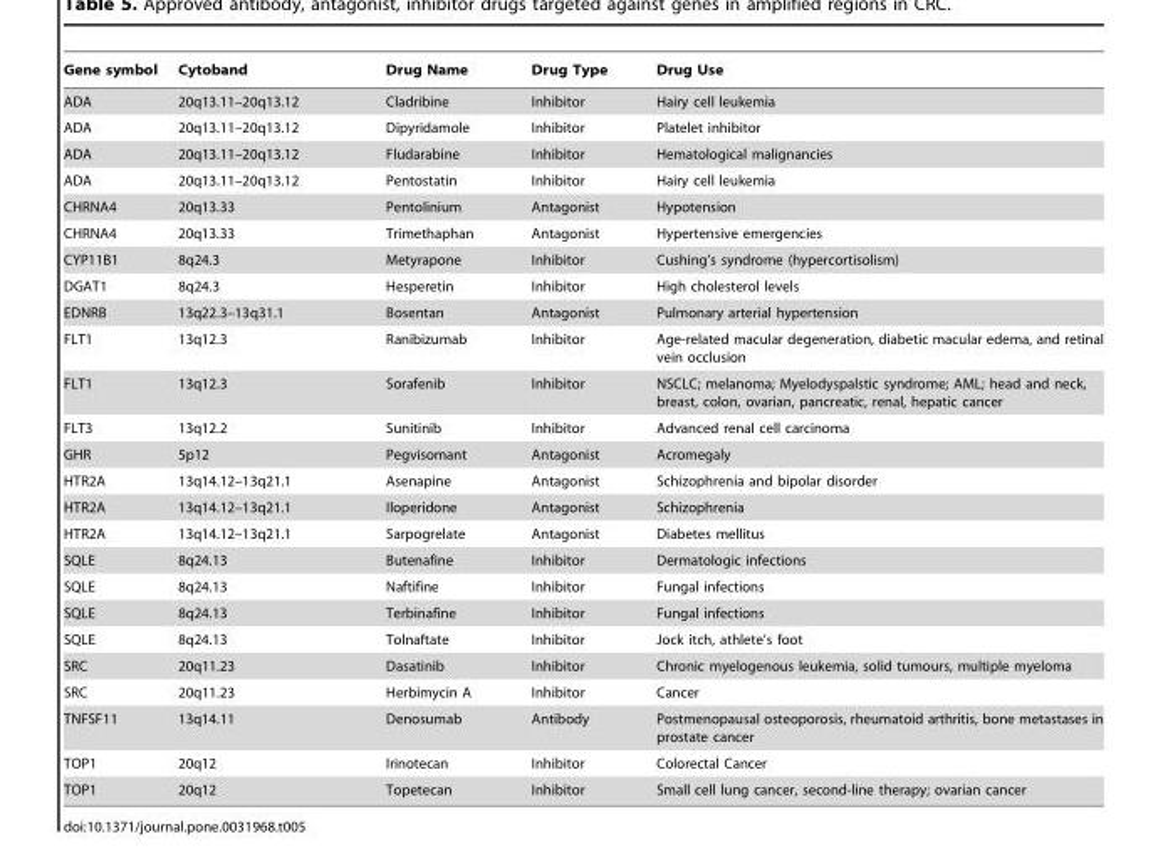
<table><thead><tr><td>Gene symbol</td><td>Cytoband</td><td>Drug Name</td><td>Drug Type</td><td>Drug Use</td></tr></thead><tbody><tr><td>ADA</td><td>20q13.11–20q13.12</td><td>Cladribine</td><td>Inhibitor</td><td>Hairy cell leukemia</td></tr><tr><td>ADA</td><td>20q13.11–20q13.12</td><td>Dipyridamole</td><td>Inhibitor</td><td>Platelet inhibitor</td></tr><tr><td>ADA</td><td>20q13.11–20q13.12</td><td>Fludarabine</td><td>Inhibitor</td><td>Hematological malignancies</td></tr><tr><td>ADA</td><td>20q13.11–20q13.12</td><td>Pentostatin</td><td>Inhibitor</td><td>Hairy cell leukemia</td></tr><tr><td>CHRNA4</td><td>20q13.33</td><td>Pentolinium</td><td>Antagonist</td><td>Hypotension</td></tr><tr><td>CHRNA4</td><td>20q13.33</td><td>Trimethaphan</td><td>Antagonist</td><td>Hypertensive emergencies</td></tr><tr><td>CYP11B1</td><td>8q24.3</td><td>Metyrapone</td><td>Inhibitor</td><td>Cushing’s syndrome (hypercortisolism)</td></tr><tr><td>DGAT1</td><td>8q24.3</td><td>Hesperetin</td><td>Inhibitor</td><td>High cholesterol levels</td></tr><tr><td>EDNRB</td><td>13q22.3–13q31.1</td><td>Bosentan</td><td>Antagonist</td><td>Pulmonary arterial hypertension</td></tr><tr><td>FLT1</td><td>13q12.3</td><td>Ranibizumab</td><td>Inhibitor</td><td>Age-related macular degeneration, diabetic macular edema, and retinal vein occlusion</td></tr><tr><td>FLT1</td><td>13q12.3</td><td>Sorafenib</td><td>Inhibitor</td><td>NSCLC; melanoma; Myelodyspalstic syndrome; AML; head and neck, breast, colon, ovarian, pancreatic, renal, hepatic cancer</td></tr><tr><td>FLT3</td><td>13q12.2</td><td>Sunitinib</td><td>Inhibitor</td><td>Advanced renal cell carcinoma</td></tr><tr><td>GHR</td><td>5p12</td><td>Pegvisomant</td><td>Antagonist</td><td>Acromegaly</td></tr><tr><td>HTR2A</td><td>13q14.12–13q21.1</td><td>Asenapine</td><td>Antagonist</td><td>Schizophrenia and bipolar disorder</td></tr><tr><td>HTR2A</td><td>13q14.12–13q21.1</td><td>Iloperidone</td><td>Antagonist</td><td>Schizophrenia</td></tr><tr><td>HTR2A</td><td>13q14.12–13q21.1</td><td>Sarpogrelate</td><td>Antagonist</td><td>Diabetes mellitus</td></tr><tr><td>SQLE</td><td>8q24.13</td><td>Butenafine</td><td>Inhibitor</td><td>Dermatologic infections</td></tr><tr><td>SQLE</td><td>8q24.13</td><td>Naftifine</td><td>Inhibitor</td><td>Fungal infections</td></tr><tr><td>SQLE</td><td>8q24.13</td><td>Terbinafine</td><td>Inhibitor</td><td>Fungal infections</td></tr><tr><td>SQLE</td><td>8q24.13</td><td>Tolnaftate</td><td>Inhibitor</td><td>Jock itch, athlete’s foot</td></tr><tr><td>SRC</td><td>20q11.23</td><td>Dasatinib</td><td>Inhibitor</td><td>Chronic myelogenous leukemia, solid tumours, multiple myeloma</td></tr><tr><td>SRC</td><td>20q11.23</td><td>Herbimycin A</td><td>Inhibitor</td><td>Cancer</td></tr><tr><td>TNFSF11</td><td>13q14.11</td><td>Denosumab</td><td>Antibody</td><td>Postmenopausal osteoporosis, rheumatoid arthritis, bone metastases in prostate cancer</td></tr><tr><td>TOP1</td><td>20q12</td><td>Irinotecan</td><td>Inhibitor</td><td>Colorectal Cancer</td></tr><tr><td>TOP1</td><td>20q12</td><td>Topetecan</td><td>Inhibitor</td><td>Small cell lung cancer, second-line therapy; ovarian cancer</td></tr></tbody></table>